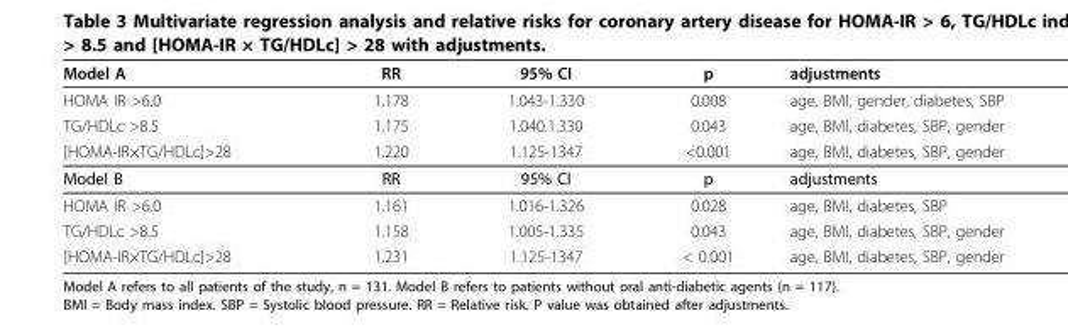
<table><thead><tr><td>Model A</td><td>RR</td><td>95% CI</td><td>p</td><td>adjustments</td></tr></thead><tbody><tr><td>HOMA IR &gt;6.0</td><td>1.178</td><td>1.043-1.330</td><td>0.008</td><td>age, BMI, gender, diabetes, SBP</td></tr><tr><td>TG/HDLc &gt;8.5</td><td>1.175</td><td>1.040.1.330</td><td>0.043</td><td>age, BMI, diabetes, SBP, gender</td></tr><tr><td>[HOMA-IR×TG/HDLc]&gt;28</td><td>1.220</td><td>1.125-1347</td><td>&lt;0.001</td><td>age, BMI, diabetes, SBP, gender</td></tr><tr><td>Model B</td><td>RR</td><td>95% CI</td><td>p</td><td>adjustments</td></tr><tr><td>HOMA IR &gt;6.0</td><td>1.161</td><td>1.016-1.326</td><td>0.028</td><td>age, BMI, diabetes, SBP</td></tr><tr><td>TG/HDLc &gt;8.5</td><td>1.158</td><td>1.005-1.335</td><td>0.043</td><td>age, BMI, diabetes, SBP, gender</td></tr><tr><td>[HOMA-IR×TG/HDLc]&gt;28</td><td>1.231</td><td>1.125-1347</td><td>&lt; 0.001</td><td>age, BMI, diabetes, SBP, gender</td></tr></tbody></table>